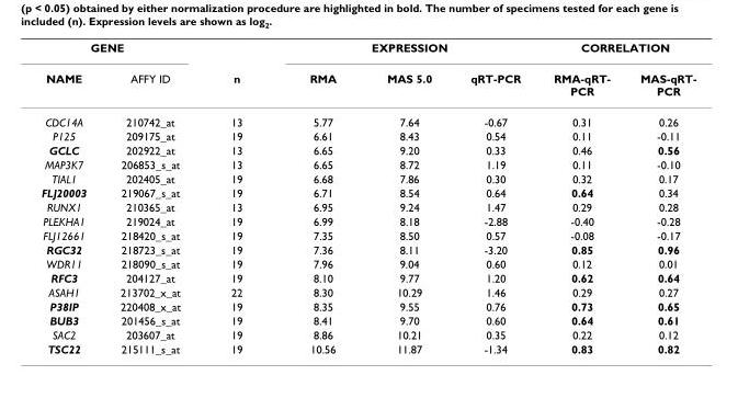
<table><thead><tr><td colspan="2">GENE</td><td rowspan="2">n</td><td colspan="3">EXPRESSION</td><td colspan="2">CORRELATION</td></tr><tr><td>NAME</td><td>AFFY ID</td><td>RMA</td><td>MAS 5.0</td><td>qRT-PCR</td><td>RMA-qRT- PCR</td><td>MAS-qRT- PCR</td></tr></thead><tbody><tr><td>CDC14A</td><td>210742_at</td><td>13</td><td>5.77</td><td>7.64</td><td>-0.67</td><td>0.31</td><td>0.26</td></tr><tr><td>P125</td><td>209175_at</td><td>19</td><td>6.61</td><td>8.43</td><td>0.54</td><td>0.11</td><td>-0.11</td></tr><tr><td>GCLC</td><td>202922_at</td><td>13</td><td>6.65</td><td>9.20</td><td>0.33</td><td>0.46</td><td>0.56</td></tr><tr><td>MAP3K7</td><td>206853_s_at</td><td>13</td><td>6.65</td><td>8.72</td><td>1.19</td><td>0.11</td><td>-0.10</td></tr><tr><td>TIAL1</td><td>202405_at</td><td>19</td><td>6.68</td><td>7.86</td><td>0.30</td><td>0.32</td><td>0.17</td></tr><tr><td>FLJ20003</td><td>219067_s_at</td><td>19</td><td>6.71</td><td>8.54</td><td>0.64</td><td>0.64</td><td>0.34</td></tr><tr><td>RUNX1</td><td>210365_at</td><td>13</td><td>6.95</td><td>9.24</td><td>1.47</td><td>0.29</td><td>0.28</td></tr><tr><td>PLEKHA1</td><td>219024_at</td><td>19</td><td>6.99</td><td>8.18</td><td>-2.88</td><td>-0.40</td><td>-0.28</td></tr><tr><td>FLJ12661</td><td>218420_s_at</td><td>19</td><td>7.35</td><td>8.50</td><td>0.57</td><td>-0.08</td><td>-0.17</td></tr><tr><td>RGC32</td><td>218723_s_at</td><td>19</td><td>7.36</td><td>8.11</td><td>-3.20</td><td>0.85</td><td>0.96</td></tr><tr><td>WDR11</td><td>218090_s_at</td><td>19</td><td>7.96</td><td>9.04</td><td>0.60</td><td>0.12</td><td>0.01</td></tr><tr><td>RFC3</td><td>204127_at</td><td>19</td><td>8.10</td><td>9.77</td><td>1.20</td><td>0.62</td><td>0.64</td></tr><tr><td>ASAH1</td><td>213702_x_at</td><td>22</td><td>8.30</td><td>10.29</td><td>1.46</td><td>0.29</td><td>0.27</td></tr><tr><td>P38IP</td><td>220408_x_at</td><td>19</td><td>8.35</td><td>9.55</td><td>0.76</td><td>0.73</td><td>0.65</td></tr><tr><td>BUB3</td><td>201456_s_at</td><td>19</td><td>8.41</td><td>9.70</td><td>0.60</td><td>0.64</td><td>0.61</td></tr><tr><td>SAC2</td><td>203607_at</td><td>19</td><td>8.86</td><td>10.21</td><td>0.35</td><td>0.22</td><td>0.12</td></tr><tr><td>TSC22</td><td>215111_s_at</td><td>19</td><td>10.56</td><td>11.87</td><td>-1.34</td><td>0.83</td><td>0.82</td></tr></tbody></table>